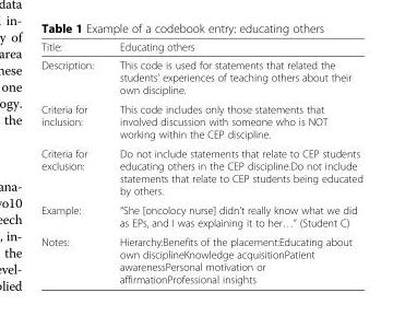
<table><thead><tr><td>Title:</td><td>Educating others</td></tr></thead><tbody><tr><td>Description:</td><td>This code is used for statements that related the students’ experiences of teaching others about their own discipline.</td></tr><tr><td>Criteria for inclusion:</td><td>This code includes only those statements that involved discussion with someone who is NOT working within the CEP discipline.</td></tr><tr><td>Criteria for exclusion:</td><td>Do not include statements that relate to CEP students educating others in the CEP discipline.Do not include statements that relate to CEP students being educated by others.</td></tr><tr><td>Example:</td><td>“She [oncolocy nurse] didn’t really know what we did as EPs, and I was explaining it to her…” (Student C)</td></tr><tr><td>Notes:</td><td>Hierarchy:Benefits of the placement:Educating about own disciplineKnowledge acquisitionPatient awarenessPersonal motivation or affirmationProfessional insights</td></tr></tbody></table>